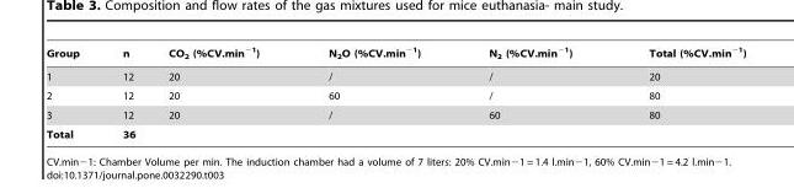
<table><thead><tr><td>Group</td><td>n</td><td>CO<sub>2</sub> (%CV.min<sup>−1</sup>)</td><td>N<sub>2</sub>O (%CV.min<sup>−1</sup>)</td><td>N<sub>2</sub> (%CV.min<sup>−1</sup>)</td><td>Total (%CV.min<sup>−1</sup>)</td></tr></thead><tbody><tr><td>1</td><td>12</td><td>20</td><td>/</td><td>/</td><td>20</td></tr><tr><td>2</td><td>12</td><td>20</td><td>60</td><td>/</td><td>80</td></tr><tr><td>3</td><td>12</td><td>20</td><td>/</td><td>60</td><td>80</td></tr><tr><td>Total</td><td>36</td><td></td><td></td><td></td><td></td></tr></tbody></table>